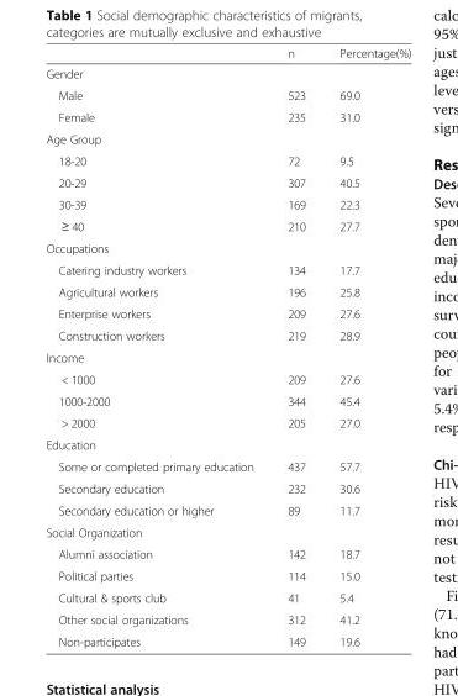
<table><thead><tr><td></td><td>n</td><td>Percentage(%)</td></tr></thead><tbody><tr><td colspan="3">Gender</td></tr><tr><td>Male</td><td>523</td><td>69.0</td></tr><tr><td>Female</td><td>235</td><td>31.0</td></tr><tr><td colspan="3">Age Group</td></tr><tr><td>18-20</td><td>72</td><td>9.5</td></tr><tr><td>20-29</td><td>307</td><td>40.5</td></tr><tr><td>30-39</td><td>169</td><td>22.3</td></tr><tr><td>≥ 40</td><td>210</td><td>27.7</td></tr><tr><td colspan="3">Occupations</td></tr><tr><td>Catering industry workers</td><td>134</td><td>17.7</td></tr><tr><td>Agricultural workers</td><td>196</td><td>25.8</td></tr><tr><td>Enterprise workers</td><td>209</td><td>27.6</td></tr><tr><td>Construction workers</td><td>219</td><td>28.9</td></tr><tr><td colspan="3">Income</td></tr><tr><td>&lt; 1000</td><td>209</td><td>27.6</td></tr><tr><td>1000-2000</td><td>344</td><td>45.4</td></tr><tr><td>&gt; 2000</td><td>205</td><td>27.0</td></tr><tr><td colspan="3">Education</td></tr><tr><td>Some or completed primary education</td><td>437</td><td>57.7</td></tr><tr><td>Secondary education</td><td>232</td><td>30.6</td></tr><tr><td>Secondary education or higher</td><td>89</td><td>11.7</td></tr><tr><td colspan="3">Social Organization</td></tr><tr><td>Alumni association</td><td>142</td><td>18.7</td></tr><tr><td>Political parties</td><td>114</td><td>15.0</td></tr><tr><td>Cultural &amp; sports club</td><td>41</td><td>5.4</td></tr><tr><td>Other social organizations</td><td>312</td><td>41.2</td></tr><tr><td>Non-participates</td><td>149</td><td>19.6</td></tr></tbody></table>